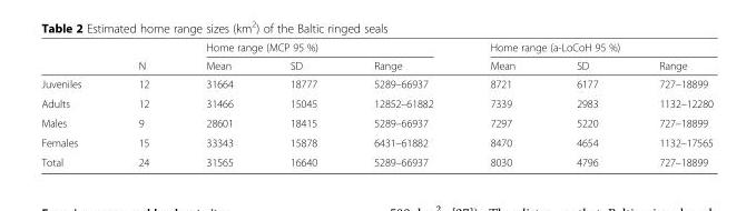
<table><thead><tr><td rowspan="2"></td><td rowspan="2">N</td><td colspan="3">Home range (MCP 95 %)</td><td colspan="3">Home range (a-LoCoH 95 %)</td></tr><tr><td>Mean</td><td>SD</td><td>Range</td><td>Mean</td><td>SD</td><td>Range</td></tr></thead><tbody><tr><td>Juveniles</td><td>12</td><td>31664</td><td>18777</td><td>5289–66937</td><td>8721</td><td>6177</td><td>727–18899</td></tr><tr><td>Adults</td><td>12</td><td>31466</td><td>15045</td><td>12852–61882</td><td>7339</td><td>2983</td><td>1132–12280</td></tr><tr><td>Males</td><td>9</td><td>28601</td><td>18415</td><td>5289–66937</td><td>7297</td><td>5220</td><td>727–18899</td></tr><tr><td>Females</td><td>15</td><td>33343</td><td>15878</td><td>6431–61882</td><td>8470</td><td>4654</td><td>1132–17565</td></tr><tr><td>Total</td><td>24</td><td>31565</td><td>16640</td><td>5289–66937</td><td>8030</td><td>4796</td><td>727–18899</td></tr></tbody></table>